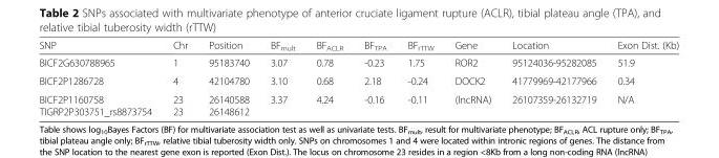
<table><thead><tr><td>SNP</td><td>Chr</td><td>Position</td><td>BF<sub>mult</sub></td><td>BF<sub>ACLR</sub></td><td>BF<sub>TPA</sub></td><td>BF<sub>rTTW</sub></td><td>Gene</td><td>Location</td><td>Exon Dist. (Kb)</td></tr></thead><tbody><tr><td>BICF2G630788965</td><td>1</td><td>95183740</td><td>3.07</td><td>0.78</td><td>-0.23</td><td>1.75</td><td>ROR2</td><td>95124036-95282085</td><td>51.9</td></tr><tr><td>BICF2P1286728</td><td>4</td><td>42104780</td><td>3.10</td><td>0.68</td><td>2.18</td><td>-0.24</td><td>DOCK2</td><td>41779969-42177966</td><td>0.34</td></tr><tr><td>BICF2P1160758 TIGRP2P303751_rs8873754</td><td>23 23</td><td>26140588 26148612</td><td>3.37</td><td>4.24</td><td>-0.16</td><td>-0.11</td><td>(lncRNA)</td><td>26107359-26132719</td><td>N/A</td></tr></tbody></table>